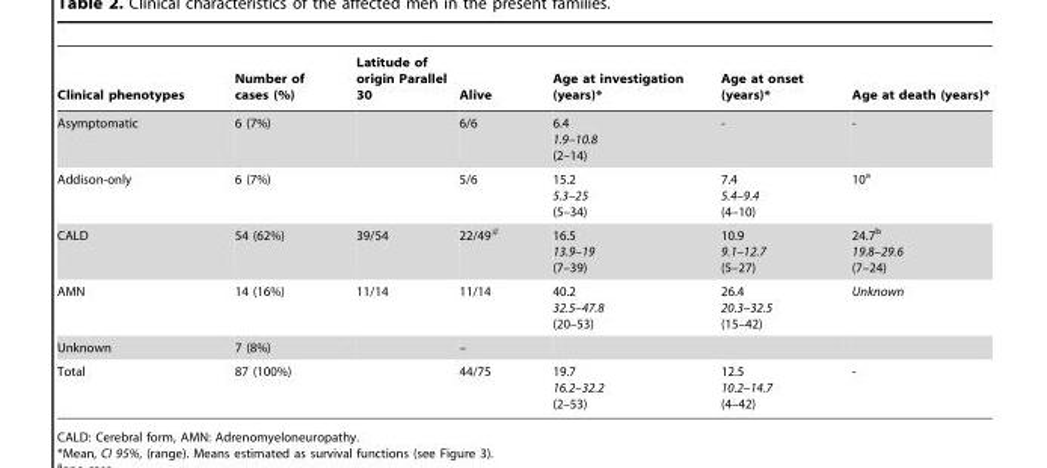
<table><thead><tr><td>Clinical phenotypes</td><td>Number of cases (%)</td><td>Latitude of origin Parallel 30</td><td>Alive</td><td>Age at investigation (years)*</td><td>Age at onset (years)*</td><td>Age at death (years)*</td></tr></thead><tbody><tr><td>Asymptomatic</td><td>6 (7%)</td><td></td><td>6/6</td><td>6.4 1.9–10.8 (2–14)</td><td>-</td><td>-</td></tr><tr><td>Addison-only</td><td>6 (7%)</td><td></td><td>5/6</td><td>15.2 5.3–25 (5–34)</td><td>7.4 5.4–9.4 (4–10)</td><td>10<sup>a</sup></td></tr><tr><td>CALD</td><td>54 (62%)</td><td>39/54</td><td>22/49#</td><td>16.5 13.9–19 (7–39)</td><td>10.9 9.1–12.7 (5–27)</td><td>24.7<sup>b</sup> 19.8–29.6 (7–24)</td></tr><tr><td>AMN</td><td>14 (16%)</td><td>11/14</td><td>11/14</td><td>40.2 32.5–47.8 (20–53)</td><td>26.4 20.3–32.5 (15–42)</td><td>Unknown</td></tr><tr><td>Unknown</td><td>7 (8%)</td><td></td><td>–</td><td></td><td></td><td></td></tr><tr><td>Total</td><td>87 (100%)</td><td></td><td>44/75</td><td>19.7 16.2–32.2 (2–53)</td><td>12.5 10.2–14.7 (4–42)</td><td>-</td></tr></tbody></table>